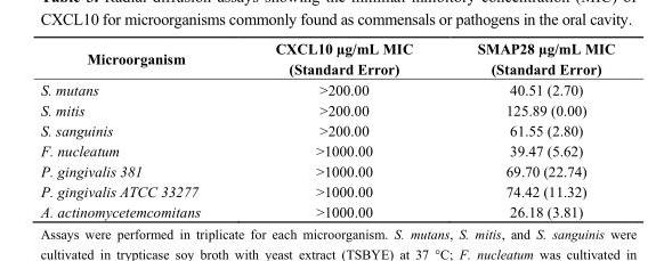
<table><thead><tr><td>Microorganism</td><td>CXCL10 µg/mL MIC (Standard Error)</td><td>SMAP28 µg/mL MIC (Standard Error)</td></tr></thead><tbody><tr><td>S. mutans</td><td>&gt;200.00</td><td>40.51 (2.70)</td></tr><tr><td>S. mitis</td><td>&gt;200.00</td><td>125.89 (0.00)</td></tr><tr><td>S. sanguinis</td><td>&gt;200.00</td><td>61.55 (2.80)</td></tr><tr><td>F. nucleatum</td><td>&gt;1000.00</td><td>39.47 (5.62)</td></tr><tr><td>P. gingivalis 381</td><td>&gt;1000.00</td><td>69.70 (22.74)</td></tr><tr><td>P. gingivalis ATCC 33277</td><td>&gt;1000.00</td><td>74.42 (11.32)</td></tr><tr><td>A. actinomycetemcomitans</td><td>&gt;1000.00</td><td>26.18 (3.81)</td></tr></tbody></table>